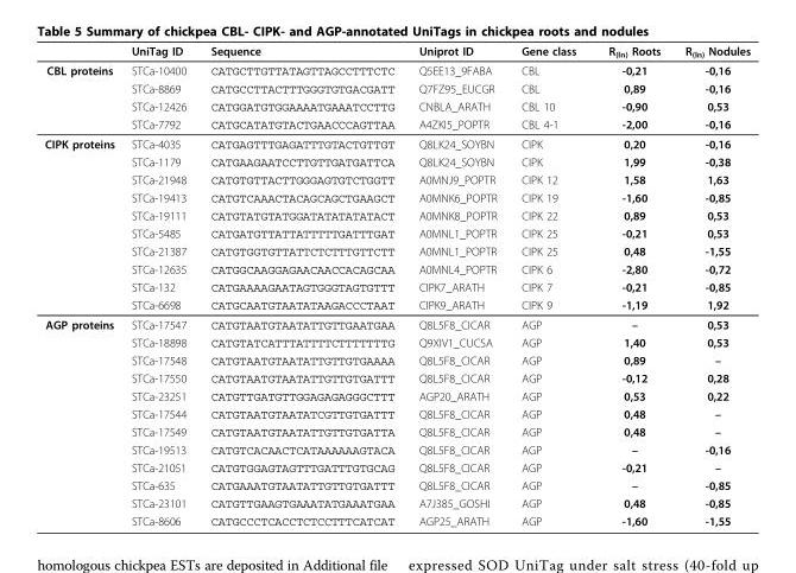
<table><thead><tr><td></td><td>UniTag ID</td><td>Sequence</td><td>Uniprot ID</td><td>Gene class</td><td>R<sub>(ln)</sub> Roots</td><td>R<sub>(ln)</sub> Nodules</td></tr></thead><tbody><tr><td rowspan="4">CBL proteins</td><td>STCa-10400</td><td>CATGCTTGTTATAGTTAGCCTTTCTC</td><td>Q5EE13_9FABA</td><td>CBL</td><td>-0,21</td><td>-0,16</td></tr><tr><td>STCa-8869</td><td>CATGCCTTACTTTGGGTGTGACGATT</td><td>Q7FZ95_EUCGR</td><td>CBL</td><td>0,89</td><td>-0,16</td></tr><tr><td>STCa-12426</td><td>CATGGATGTGGAAAATGAAATCCTTG</td><td>CNBLA_ARATH</td><td>CBL 10</td><td>-0,90</td><td>0,53</td></tr><tr><td>STCa-7792</td><td>CATGCATATGTACTGAACCCAGTTAA</td><td>A4ZKI5_POPTR</td><td>CBL 4-1</td><td>-2,00</td><td>-0,16</td></tr><tr><td rowspan="10">CIPK proteins</td><td>STCa-4035</td><td>CATGAGTTTGAGATTTGTACTGTTGT</td><td>Q8LK24_SOYBN</td><td>CIPK</td><td>0,20</td><td>-0,16</td></tr><tr><td>STCa-1179</td><td>CATGAAGAATCCTTGTTGATGATTCA</td><td>Q8LK24_SOYBN</td><td>CIPK</td><td>1,99</td><td>-0,38</td></tr><tr><td>STCa-21948</td><td>CATGTGTTACTTGGGAGTGTCTGGTT</td><td>A0MNJ9_POPTR</td><td>CIPK 12</td><td>1,58</td><td>1,63</td></tr><tr><td>STCa-19413</td><td>CATGTCAAACTACAGCAGCTGAAGCT</td><td>A0MNK6_POPTR</td><td>CIPK 19</td><td>-1,60</td><td>-0,85</td></tr><tr><td>STCa-19111</td><td>CATGTATGTATGGATATATATATACT</td><td>A0MNK8_POPTR</td><td>CIPK 22</td><td>0,89</td><td>0,53</td></tr><tr><td>STCa-5485</td><td>CATGATGTTATTATTTTTGATTTGAT</td><td>A0MNL1_POPTR</td><td>CIPK 25</td><td>-0,21</td><td>0,53</td></tr><tr><td>STCa-21387</td><td>CATGTGGTGTTATTCTCTTTGTTCTT</td><td>A0MNL1_POPTR</td><td>CIPK 25</td><td>0,48</td><td>-1,55</td></tr><tr><td>STCa-12635</td><td>CATGGCAAGGAGAACAACCACAGCAA</td><td>A0MNL4_POPTR</td><td>CIPK 6</td><td>-2,80</td><td>-0,72</td></tr><tr><td>STCa-132</td><td>CATGAAAAGAATAGTGGGTAGTGTTT</td><td>CIPK7_ARATH</td><td>CIPK 7</td><td>-0,21</td><td>-0,85</td></tr><tr><td>STCa-6698</td><td>CATGCAATGTAATATAAGACCCTAAT</td><td>CIPK9_ARATH</td><td>CIPK 9</td><td>-1,19</td><td>1,92</td></tr><tr><td rowspan="12">AGP proteins</td><td>STCa-17547</td><td>CATGTAATGTAATATTGTTGAATGAA</td><td>Q8L5F8_CICAR</td><td>AGP</td><td>–</td><td>0,53</td></tr><tr><td>STCa-18898</td><td>CATGTATCATTTATTTTCTTTTTTTG</td><td>Q9XIV1_CUCSA</td><td>AGP</td><td>1,40</td><td>0,53</td></tr><tr><td>STCa-17548</td><td>CATGTAATGTAATATTGTTGTGAAAA</td><td>Q8L5F8_CICAR</td><td>AGP</td><td>0,89</td><td>–</td></tr><tr><td>STCa-17550</td><td>CATGTAATGTAATATTGTTGTGATTT</td><td>Q8L5F8_CICAR</td><td>AGP</td><td>-0,12</td><td>0,28</td></tr><tr><td>STCa-23251</td><td>CATGTTGATGTTGGAGAGAGGGCTTT</td><td>AGP20_ARATH</td><td>AGP</td><td>0,53</td><td>0,22</td></tr><tr><td>STCa-17544</td><td>CATGTAATGTAATATCGTTGTGATTT</td><td>Q8L5F8_CICAR</td><td>AGP</td><td>0,48</td><td>–</td></tr><tr><td>STCa-17549</td><td>CATGTAATGTAATATTGTTGTGATTA</td><td>Q8L5F8_CICAR</td><td>AGP</td><td>0,48</td><td>–</td></tr><tr><td>STCa-19513</td><td>CATGTCACAACTCATAAAAAAGTACA</td><td>Q8L5F8_CICAR</td><td>AGP</td><td>–</td><td>-0,16</td></tr><tr><td>STCa-21051</td><td>CATGTGGAGTAGTTTGATTTGTGCAG</td><td>Q8L5F8_CICAR</td><td>AGP</td><td>-0,21</td><td>–</td></tr><tr><td>STCa-635</td><td>CATGAAATGTAATATTGTTGTGATTT</td><td>Q8L5F8_CICAR</td><td>AGP</td><td>–</td><td>-0,85</td></tr><tr><td>STCa-23101</td><td>CATGTTGAAGTGAAATATGAAATGAA</td><td>A7J385_GOSHI</td><td>AGP</td><td>0,48</td><td>-0,85</td></tr><tr><td>STCa-8606</td><td>CATGCCCTCACCTCTCCTTTCATCAT</td><td>AGP25_ARATH</td><td>AGP</td><td>-1,60</td><td>-1,55</td></tr></tbody></table>